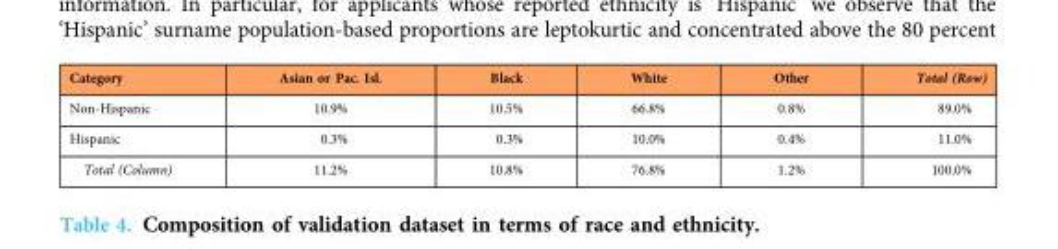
<table><thead><tr><td>Category</td><td>Asian or Pac. Isl.</td><td>Black</td><td>White</td><td>Other</td><td>Total (Row)</td></tr></thead><tbody><tr><td>Non-Hispanic</td><td>10.9%</td><td>10.5%</td><td>66.8%</td><td>0.8%</td><td>89.0%</td></tr><tr><td>Hispanic</td><td>0.3%</td><td>0.3%</td><td>10.0%</td><td>0.4%</td><td>11.0%</td></tr><tr><td>Total (Column)</td><td>11.2%</td><td>10.8%</td><td>76.8%</td><td>1.2%</td><td>100.0%</td></tr></tbody></table>